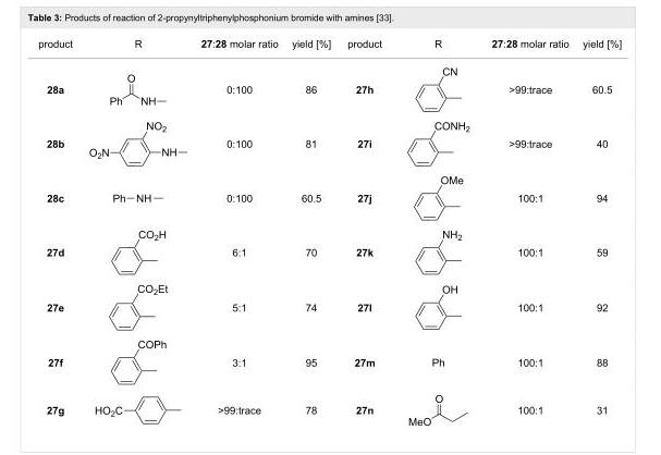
<table><tbody><tr><td>product</td><td>R</td><td>27:28 molar ratio</td><td>yield [%]</td><td>product</td><td>R</td><td>27:28 molar ratio</td><td>yield [%]</td></tr><tr><td>28a</td><td></td><td>0:100</td><td>86</td><td>27h</td><td></td><td>&gt;99:trace</td><td>60.5</td></tr><tr><td>28b</td><td></td><td>0:100</td><td>81</td><td>27i</td><td></td><td>&gt;99:trace</td><td>40</td></tr><tr><td>28c</td><td></td><td>0:100</td><td>60.5</td><td>27j</td><td></td><td>100:1</td><td>94</td></tr><tr><td>27d</td><td></td><td>6:1</td><td>70</td><td>27k</td><td></td><td>100:1</td><td>59</td></tr><tr><td>27e</td><td></td><td>5:1</td><td>74</td><td>27l</td><td></td><td>100:1</td><td>92</td></tr><tr><td>27f</td><td></td><td>3:1</td><td>95</td><td>27m</td><td></td><td>100:1</td><td>88</td></tr><tr><td>27g</td><td></td><td>&gt;99:trace</td><td>78</td><td>27n</td><td></td><td>100:1</td><td>31</td></tr></tbody></table>